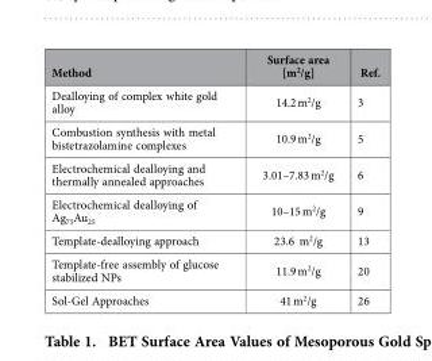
<table><thead><tr><td>Method</td><td>Surface area [m<sup>2</sup>/g]</td><td>Ref.</td></tr></thead><tbody><tr><td>Dealloying of complex white gold alloy</td><td>14.2 m<sup>2</sup>/g</td><td>3</td></tr><tr><td>Combustion synthesis with metal bistetrazolamine complexes</td><td>10.9 m<sup>2</sup>/g</td><td>5</td></tr><tr><td>Electrochemical dealloying and thermally annealed approaches</td><td>3.01–7.83 m<sup>2</sup>/g</td><td>6</td></tr><tr><td>Electrochemical dealloying of Ag<sub>75</sub>Au<sub>25</sub></td><td>10–15 m<sup>2</sup>/g</td><td>9</td></tr><tr><td>Template-dealloying approach</td><td>23.6 m<sup>2</sup>/g</td><td>13</td></tr><tr><td>Template-free assembly of glucose stabilized NPs</td><td>11.9 m<sup>2</sup>/g</td><td>20</td></tr><tr><td>Sol-Gel Approaches</td><td>41 m<sup>2</sup>/g</td><td>26</td></tr></tbody></table>